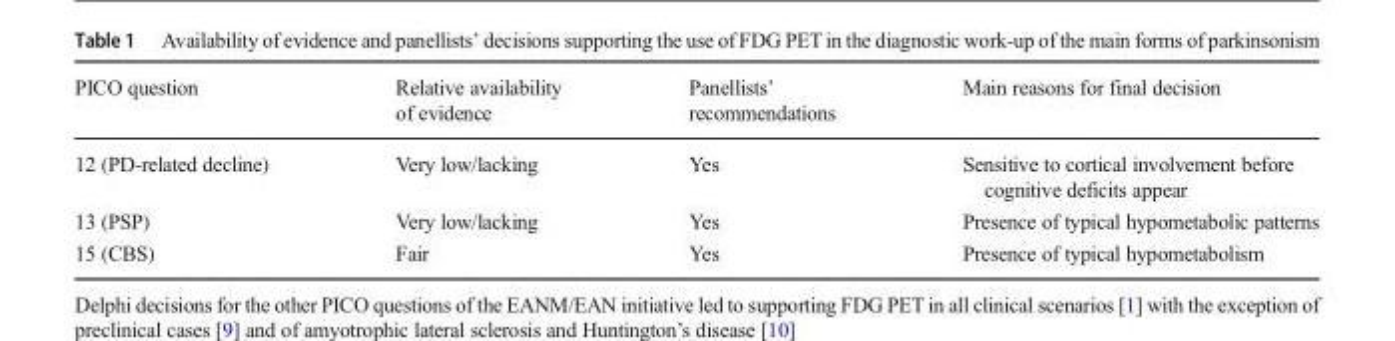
<table><thead><tr><td>PICO question</td><td>Relative availability of evidence</td><td>Panellists’ recommendations</td><td>Main reasons for final decision</td></tr></thead><tbody><tr><td>12 (PD-related decline)</td><td>Very low/lacking</td><td>Yes</td><td>Sensitive to cortical involvement before cognitive deficits appear</td></tr><tr><td>13 (PSP)</td><td>Very low/lacking</td><td>Yes</td><td>Presence of typical hypometabolic patterns</td></tr><tr><td>15 (CBS)</td><td>Fair</td><td>Yes</td><td>Presence of typical hypometabolism</td></tr></tbody></table>